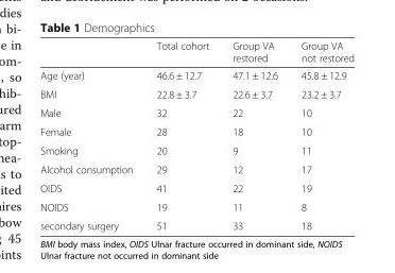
<table><thead><tr><td></td><td>Total cohort</td><td>Group VA restored</td><td>Group VA not restored</td></tr></thead><tbody><tr><td>Age (year)</td><td>46.6 ± 12.7</td><td>47.1 ± 12.6</td><td>45.8 ± 12.9</td></tr><tr><td>BMI</td><td>22.8 ± 3.7</td><td>22.6 ± 3.7</td><td>23.2 ± 3.7</td></tr><tr><td>Male</td><td>32</td><td>22</td><td>10</td></tr><tr><td>Female</td><td>28</td><td>18</td><td>10</td></tr><tr><td>Smoking</td><td>20</td><td>9</td><td>11</td></tr><tr><td>Alcohol consumption</td><td>29</td><td>12</td><td>17</td></tr><tr><td>OIDS</td><td>41</td><td>22</td><td>19</td></tr><tr><td>NOIDS</td><td>19</td><td>11</td><td>8</td></tr><tr><td>secondary surgery</td><td>51</td><td>33</td><td>18</td></tr></tbody></table>